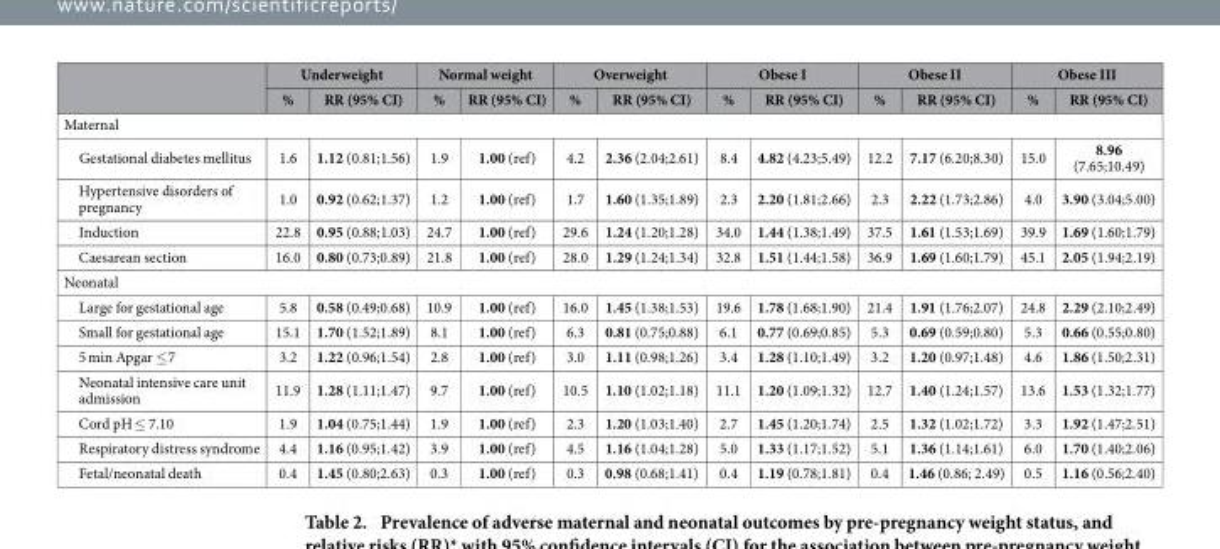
<table><thead><tr><td rowspan="2"></td><td colspan="2">Underweight</td><td colspan="2">Normal weight</td><td colspan="2">Overweight</td><td colspan="2">Obese I</td><td colspan="2">Obese II</td><td colspan="2">Obese III</td></tr><tr><td>%</td><td>RR (95% CI)</td><td>%</td><td>RR (95% CI)</td><td>%</td><td>RR (95% CI)</td><td>%</td><td>RR (95% CI)</td><td>%</td><td>RR (95% CI)</td><td>%</td><td>RR (95% CI)</td></tr></thead><tbody><tr><td colspan="13">Maternal</td></tr><tr><td>Gestational diabetes mellitus</td><td>1.6</td><td>1.12 (0.81;1.56)</td><td>1.9</td><td>1.00 (ref)</td><td>4.2</td><td>2.36 (2.04;2.61)</td><td>8.4</td><td>4.82 (4.23;5.49)</td><td>12.2</td><td>7.17 (6.20;8.30)</td><td>15.0</td><td>8.96 (7.65;10.49)</td></tr><tr><td>Hypertensive disorders of pregnancy</td><td>1.0</td><td>0.92 (0.62;1.37)</td><td>1.2</td><td>1.00 (ref)</td><td>1.7</td><td>1.60 (1.35;1.89)</td><td>2.3</td><td>2.20 (1.81;2.66)</td><td>2.3</td><td>2.22 (1.73;2.86)</td><td>4.0</td><td>3.90 (3.04;5.00)</td></tr><tr><td>Induction</td><td>22.8</td><td>0.95 (0.88;1.03)</td><td>24.7</td><td>1.00 (ref)</td><td>29.6</td><td>1.24 (1.20;1.28)</td><td>34.0</td><td>1.44 (1.38;1.49)</td><td>37.5</td><td>1.61 (1.53;1.69)</td><td>39.9</td><td>1.69 (1.60;1.79)</td></tr><tr><td>Caesarean section</td><td>16.0</td><td>0.80 (0.73;0.89)</td><td>21.8</td><td>1.00 (ref)</td><td>28.0</td><td>1.29 (1.24;1.34)</td><td>32.8</td><td>1.51 (1.44;1.58)</td><td>36.9</td><td>1.69 (1.60;1.79)</td><td>45.1</td><td>2.05 (1.94;2.19)</td></tr><tr><td colspan="13">Neonatal</td></tr><tr><td>Large for gestational age</td><td>5.8</td><td>0.58 (0.49;0.68)</td><td>10.9</td><td>1.00 (ref)</td><td>16.0</td><td>1.45 (1.38;1.53)</td><td>19.6</td><td>1.78 (1.68;1.90)</td><td>21.4</td><td>1.91 (1.76;2.07)</td><td>24.8</td><td>2.29 (2.10;2.49)</td></tr><tr><td>Small for gestational age</td><td>15.1</td><td>1.70 (1.52;1.89)</td><td>8.1</td><td>1.00 (ref)</td><td>6.3</td><td>0.81 (0.75;0.88)</td><td>6.1</td><td>0.77 (0.69;0.85)</td><td>5.3</td><td>0.69 (0.59;0.80)</td><td>5.3</td><td>0.66 (0.55;0.80)</td></tr><tr><td>5 min Apgar ≤ 7</td><td>3.2</td><td>1.22 (0.96;1.54)</td><td>2.8</td><td>1.00 (ref)</td><td>3.0</td><td>1.11 (0.98;1.26)</td><td>3.4</td><td>1.28 (1.10;1.49)</td><td>3.2</td><td>1.20 (0.97;1.48)</td><td>4.6</td><td>1.86 (1.50;2.31)</td></tr><tr><td>Neonatal intensive care unit admission</td><td>11.9</td><td>1.28 (1.11;1.47)</td><td>9.7</td><td>1.00 (ref)</td><td>10.5</td><td>1.10 (1.02;1.18)</td><td>11.1</td><td>1.20 (1.09;1.32)</td><td>12.7</td><td>1.40 (1.24;1.57)</td><td>13.6</td><td>1.53 (1.32;1.77)</td></tr><tr><td>Cord pH ≤ 7.10</td><td>1.9</td><td>1.04 (0.75;1.44)</td><td>1.9</td><td>1.00 (ref)</td><td>2.3</td><td>1.20 (1.03;1.40)</td><td>2.7</td><td>1.45 (1.20;1.74)</td><td>2.5</td><td>1.32 (1.02;1.72)</td><td>3.3</td><td>1.92 (1.47;2.51)</td></tr><tr><td>Respiratory distress syndrome</td><td>4.4</td><td>1.16 (0.95;1.42)</td><td>3.9</td><td>1.00 (ref)</td><td>4.5</td><td>1.16 (1.04;1.28)</td><td>5.0</td><td>1.33 (1.17;1.52)</td><td>5.1</td><td>1.36 (1.14;1.61)</td><td>6.0</td><td>1.70 (1.40;2.06)</td></tr><tr><td>Fetal/neonatal death</td><td>0.4</td><td>1.45 (0.80;2.63)</td><td>0.3</td><td>1.00 (ref)</td><td>0.3</td><td>0.98 (0.68;1.41)</td><td>0.4</td><td>1.19 (0.78;1.81)</td><td>0.4</td><td>1.46 (0.86; 2.49)</td><td>0.5</td><td>1.16 (0.56;2.40)</td></tr></tbody></table>